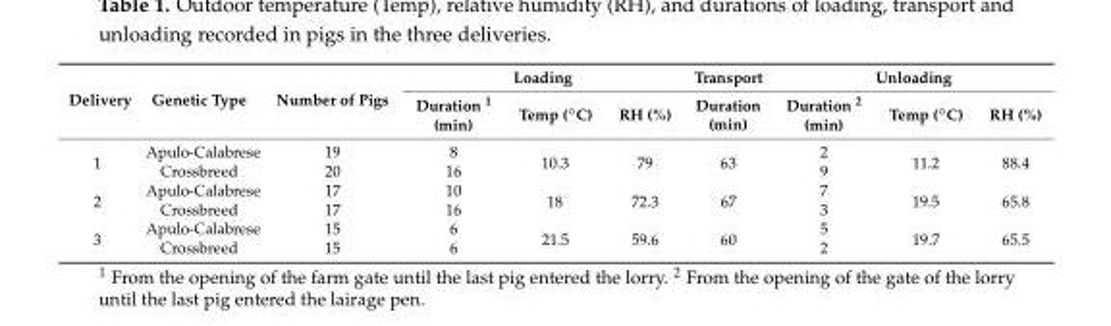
<table><thead><tr><td rowspan="2">Delivery</td><td rowspan="2">Genetic Type</td><td rowspan="2">Number of Pigs</td><td colspan="3">Loading</td><td rowspan="2">Transport Duration (min)</td><td colspan="3">Unloading</td></tr><tr><td>Duration <sup>1</sup> (min)</td><td>Temp (◦C)</td><td>RH (%)</td><td>Duration <sup>2</sup> (min)</td><td>Temp (◦C)</td><td>RH (%)</td></tr></thead><tbody><tr><td rowspan="2">1</td><td>Apulo-Calabrese</td><td>19</td><td>8</td><td rowspan="2">10.3</td><td rowspan="2">79</td><td rowspan="2">63</td><td>2</td><td rowspan="2">11.2</td><td rowspan="2">88.4</td></tr><tr><td>Crossbreed</td><td>20</td><td>16</td><td>9</td></tr><tr><td rowspan="2">2</td><td>Apulo-Calabrese</td><td>17</td><td>10</td><td rowspan="2">18</td><td rowspan="2">72.3</td><td rowspan="2">67</td><td>7</td><td rowspan="2">19.5</td><td rowspan="2">65.8</td></tr><tr><td>Crossbreed</td><td>17</td><td>16</td><td>3</td></tr><tr><td rowspan="2">3</td><td>Apulo-Calabrese</td><td>15</td><td>6</td><td rowspan="2">21.5</td><td rowspan="2">59.6</td><td rowspan="2">60</td><td>5</td><td rowspan="2">19.7</td><td rowspan="2">65.5</td></tr><tr><td>Crossbreed</td><td>15</td><td>6</td><td>2</td></tr></tbody></table>